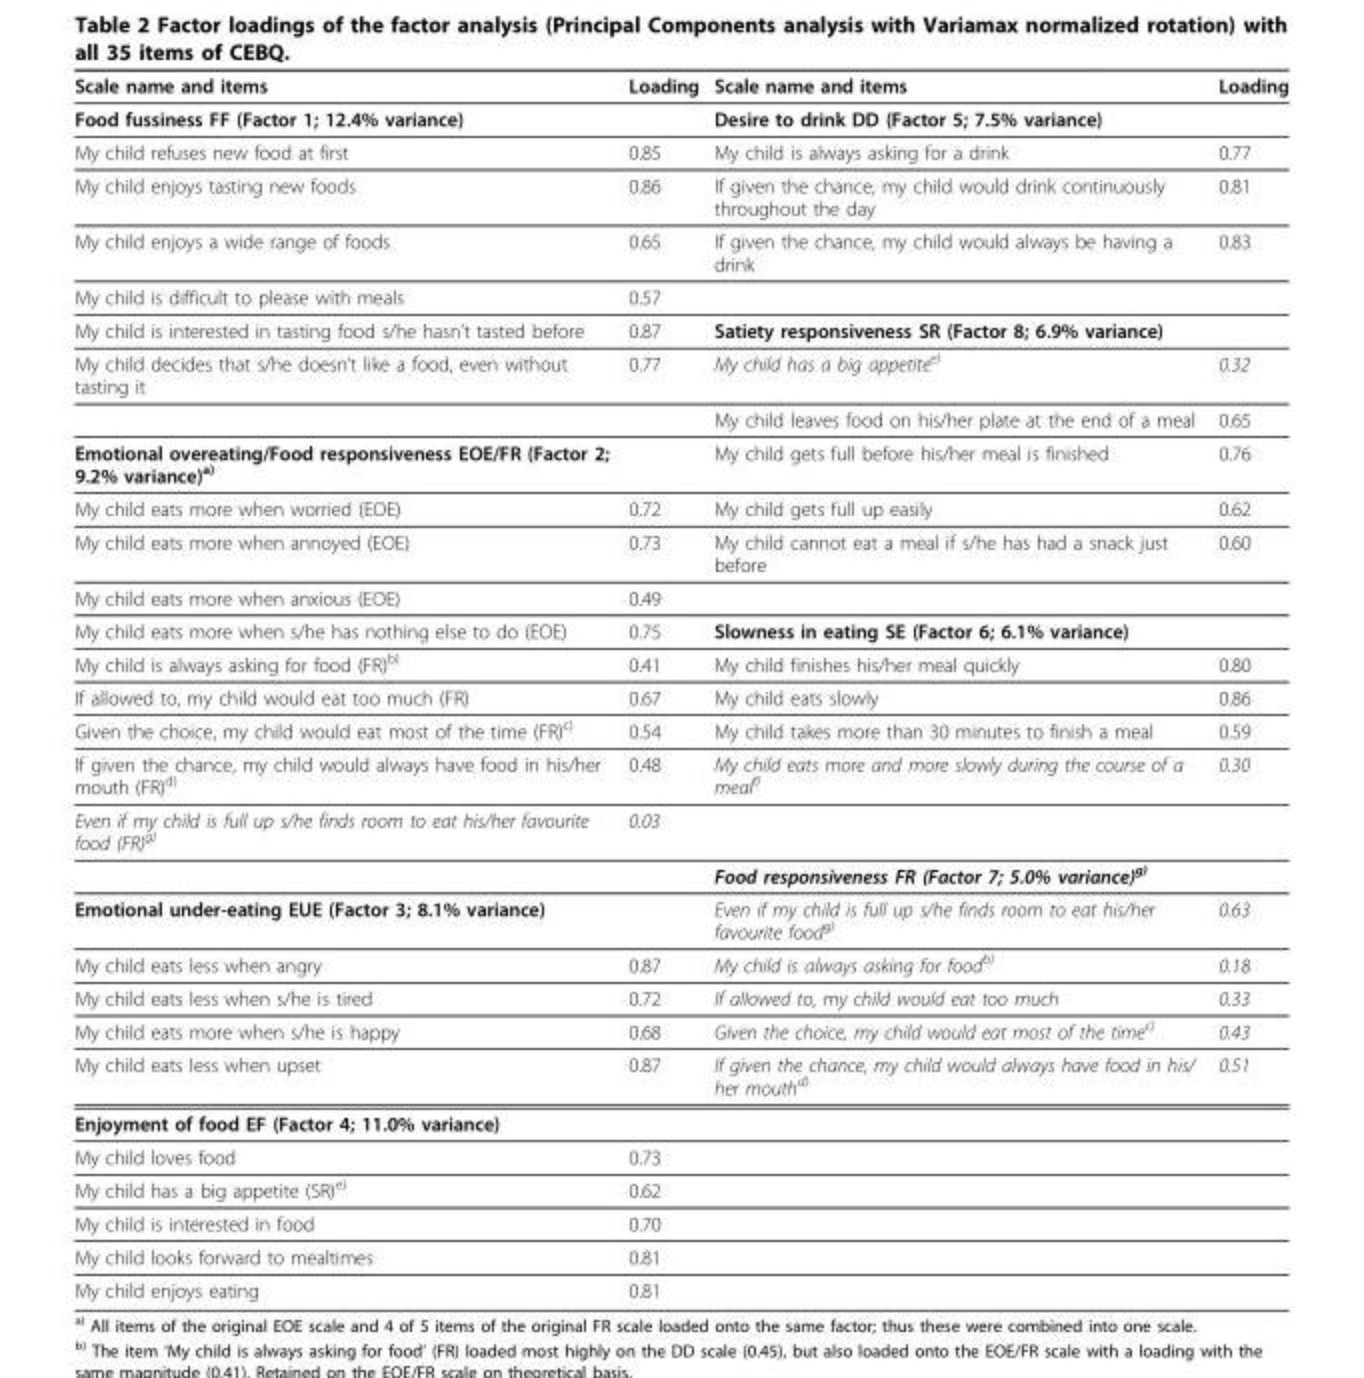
<table><thead><tr><td>Scale name and items</td><td>Loading</td><td>Scale name and items</td><td>Loading</td></tr></thead><tbody><tr><td>Food fussiness FF (Factor 1; 12.4% variance)</td><td></td><td>Desire to drink DD (Factor 5; 7.5% variance)</td><td></td></tr><tr><td>My child refuses new food at first</td><td>0.85</td><td>My child is always asking for a drink</td><td>0.77</td></tr><tr><td>My child enjoys tasting new foods</td><td>0.86</td><td>If given the chance, my child would drink continuously throughout the day</td><td>0.81</td></tr><tr><td>My child enjoys a wide range of foods</td><td>0.65</td><td>If given the chance, my child would always be having a drink</td><td>0.83</td></tr><tr><td>My child is difficult to please with meals</td><td>0.57</td><td></td><td></td></tr><tr><td>My child is interested in tasting food s/he hasn’t tasted before</td><td>0.87</td><td>Satiety responsiveness SR (Factor 8; 6.9% variance)</td><td></td></tr><tr><td rowspan="2">My child decides that s/he doesn’t like a food, even without tasting it</td><td>0.77</td><td>My child has a big appetite<sup>e)</sup></td><td>0.32</td></tr><tr><td></td><td>My child leaves food on his/her plate at the end of a meal</td><td>0.65</td></tr><tr><td>Emotional overeating/Food responsiveness EOE/FR (Factor 2; 9.2% variance)<sup>a)</sup></td><td></td><td>My child gets full before his/her meal is finished</td><td>0.76</td></tr><tr><td>My child eats more when worried (EOE)</td><td>0.72</td><td>My child gets full up easily</td><td>0.62</td></tr><tr><td>My child eats more when annoyed (EOE)</td><td>0.73</td><td>My child cannot eat a meal if s/he has had a snack just before</td><td>0.60</td></tr><tr><td>My child eats more when anxious (EOE)</td><td>0.49</td><td></td><td></td></tr><tr><td>My child eats more when s/he has nothing else to do (EOE)</td><td>0.75</td><td>Slowness in eating SE (Factor 6; 6.1% variance)</td><td></td></tr><tr><td>My child is always asking for food (FR)<sup>b)</sup></td><td>0.41</td><td>My child finishes his/her meal quickly</td><td>0.80</td></tr><tr><td>If allowed to, my child would eat too much (FR)</td><td>0.67</td><td>My child eats slowly</td><td>0.86</td></tr><tr><td>Given the choice, my child would eat most of the time (FR)<sup>c)</sup></td><td>0.54</td><td>My child takes more than 30 minutes to finish a meal</td><td>0.59</td></tr><tr><td>If given the chance, my child would always have food in his/her mouth (FR)<sup>d)</sup></td><td>0.48</td><td>My child eats more and more slowly during the course of a meal<sup>f)</sup></td><td>0.30</td></tr><tr><td rowspan="2">Even if my child is full up s/he finds room to eat his/her favourite food (FR)<sup>g)</sup></td><td>0.03</td><td></td><td></td></tr><tr><td></td><td>Food responsiveness FR (Factor 7; 5.0% variance)<sup>g)</sup></td><td></td></tr><tr><td>Emotional under-eating EUE (Factor 3; 8.1% variance)</td><td></td><td>Even if my child is full up s/he finds room to eat his/her favourite food<sup>g)</sup></td><td>0.63</td></tr><tr><td>My child eats less when angry</td><td>0.87</td><td>My child is always asking for food<sup>b)</sup></td><td>0.18</td></tr><tr><td>My child eats less when s/he is tired</td><td>0.72</td><td>If allowed to, my child would eat too much</td><td>0.33</td></tr><tr><td>My child eats more when s/he is happy</td><td>0.68</td><td>Given the choice, my child would eat most of the time<sup>c)</sup></td><td>0.43</td></tr><tr><td>My child eats less when upset</td><td>0.87</td><td>If given the chance, my child would always have food in his/ her mouth<sup>d)</sup></td><td>0.51</td></tr><tr><td colspan="4">Enjoyment of food EF (Factor 4; 11.0% variance)</td></tr><tr><td>My child loves food</td><td>0.73</td><td></td><td></td></tr><tr><td>My child has a big appetite (SR)e)</td><td>0.62</td><td></td><td></td></tr><tr><td>My child is interested in food</td><td>0.70</td><td></td><td></td></tr><tr><td>My child looks forward to mealtimes</td><td>0.81</td><td></td><td></td></tr><tr><td>My child enjoys eating</td><td>0.81</td><td></td><td></td></tr></tbody></table>